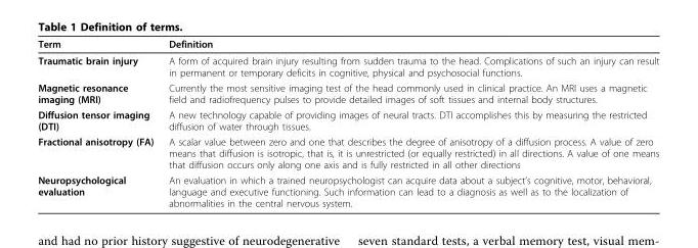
<table><thead><tr><td>Term</td><td>Definition</td></tr></thead><tbody><tr><td>Traumatic brain injury</td><td>A form of acquired brain injury resulting from sudden trauma to the head. Complications of such an injury can result in permanent or temporary deficits in cognitive, physical and psychosocial functions.</td></tr><tr><td>Magnetic resonance imaging (MRI)</td><td>Currently the most sensitive imaging test of the head commonly used in clinical practice. An MRI uses a magnetic field and radiofrequency pulses to provide detailed images of soft tissues and internal body structures.</td></tr><tr><td>Diffusion tensor imaging (DTI)</td><td>A new technology capable of providing images of neural tracts. DTI accomplishes this by measuring the restricted diffusion of water through tissues.</td></tr><tr><td>Fractional anisotropy (FA)</td><td>A scalar value between zero and one that describes the degree of anisotropy of a diffusion process. A value of zero means that diffusion is isotropic, that is, it is unrestricted (or equally restricted) in all directions. A value of one means that diffusion occurs only along one axis and is fully restricted in all other directions</td></tr><tr><td>Neuropsychological evaluation</td><td>An evaluation in which a trained neuropsychologist can acquire data about a subject’s cognitive, motor, behavioral, language and executive functioning. Such information can lead to a diagnosis as well as to the localization of abnormalities in the central nervous system.</td></tr></tbody></table>